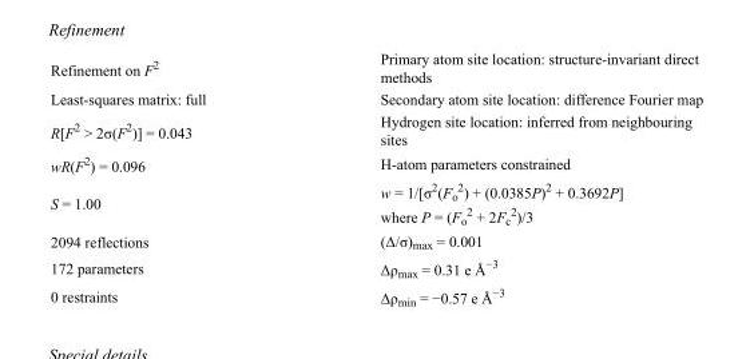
<table><tbody><tr><td>Refinement on F<sup>2</sup></td><td>Primary atom site location: structure-invariant direct methods</td></tr><tr><td>Least-squares matrix: full</td><td>Secondary atom site location: difference Fourier map</td></tr><tr><td>R[F<sup>2</sup> &gt; 2σ(F<sup>2</sup>)] = 0.043</td><td>Hydrogen site location: inferred from neighbouring sites</td></tr><tr><td>wR(F<sup>2</sup>) = 0.096</td><td>H-atom parameters constrained</td></tr><tr><td>S = 1.00</td><td>w = 1/[σ<sup>2</sup>(F<sub>o</sub> <sup>2</sup>) + (0.0385P)<sup>2</sup> + 0.3692P] where P = (F<sub>o</sub> <sup>2</sup> + 2F<sub>c</sub> <sup>2</sup>)/3</td></tr><tr><td>2094 reflections</td><td>(Δ/σ)<sub>max</sub> = 0.001</td></tr><tr><td>172 parameters</td><td>Δρ<sub>max</sub> = 0.31 e Å<sup>−3</sup></td></tr><tr><td>0 restraints</td><td>Δρ<sub>min</sub> = −0.57 e Å<sup>−3</sup></td></tr></tbody></table>